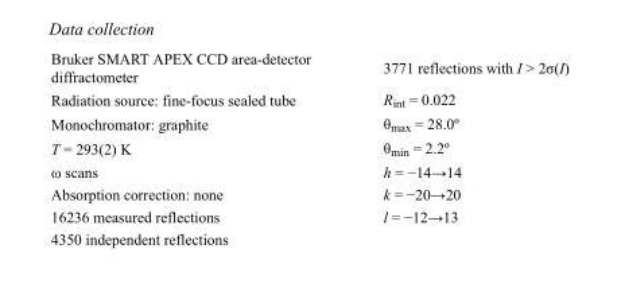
<table><tbody><tr><td>Bruker SMART APEX CCD area-detector diffractometer</td><td>3771 reflections with I &gt; 2σ(I)</td></tr><tr><td>Radiation source: fine-focus sealed tube</td><td>R<sub>int</sub> = 0.022</td></tr><tr><td>Monochromator: graphite</td><td>θ<sub>max</sub> = 28.0º</td></tr><tr><td>T = 293(2) K</td><td>θ<sub>min</sub> = 2.2º</td></tr><tr><td>ω scans</td><td>h = −14→14</td></tr><tr><td>Absorption correction: none</td><td>k = −20→20</td></tr><tr><td>16236 measured reflections</td><td>l = −12→13</td></tr><tr><td>4350 independent reflections</td><td></td></tr></tbody></table>